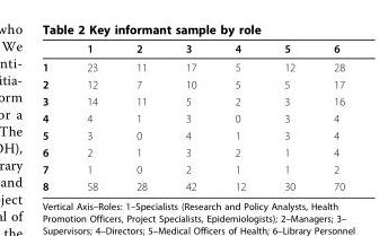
<table><thead><tr><td></td><td>1</td><td>2</td><td>3</td><td>4</td><td>5</td><td>6</td></tr></thead><tbody><tr><td>1</td><td>23</td><td>11</td><td>17</td><td>5</td><td>12</td><td>28</td></tr><tr><td>2</td><td>12</td><td>7</td><td>10</td><td>5</td><td>5</td><td>17</td></tr><tr><td>3</td><td>14</td><td>11</td><td>5</td><td>2</td><td>3</td><td>16</td></tr><tr><td>4</td><td>4</td><td>1</td><td>3</td><td>0</td><td>3</td><td>4</td></tr><tr><td>5</td><td>3</td><td>0</td><td>4</td><td>1</td><td>3</td><td>4</td></tr><tr><td>6</td><td>2</td><td>1</td><td>3</td><td>2</td><td>1</td><td>4</td></tr><tr><td>7</td><td>1</td><td>0</td><td>2</td><td>1</td><td>1</td><td>2</td></tr><tr><td>8</td><td>58</td><td>28</td><td>42</td><td>12</td><td>30</td><td>70</td></tr></tbody></table>